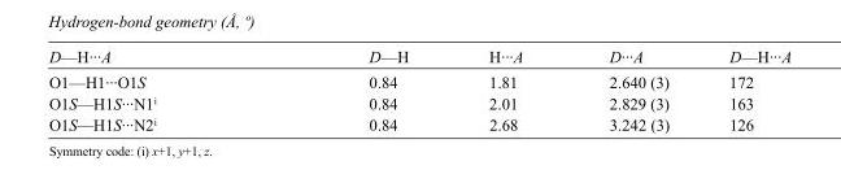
<table><tbody><tr><td>D—H···A</td><td>D—H</td><td>H···A</td><td>D···A</td><td>D—H···A</td></tr><tr><td>O1—H1···O1S</td><td>0.84</td><td>1.81</td><td>2.640 (3)</td><td>172</td></tr><tr><td>O1S—H1S···N1<sup>i</sup></td><td>0.84</td><td>2.01</td><td>2.829 (3)</td><td>163</td></tr><tr><td>O1S—H1S···N2<sup>i</sup></td><td>0.84</td><td>2.68</td><td>3.242 (3)</td><td>126</td></tr></tbody></table>